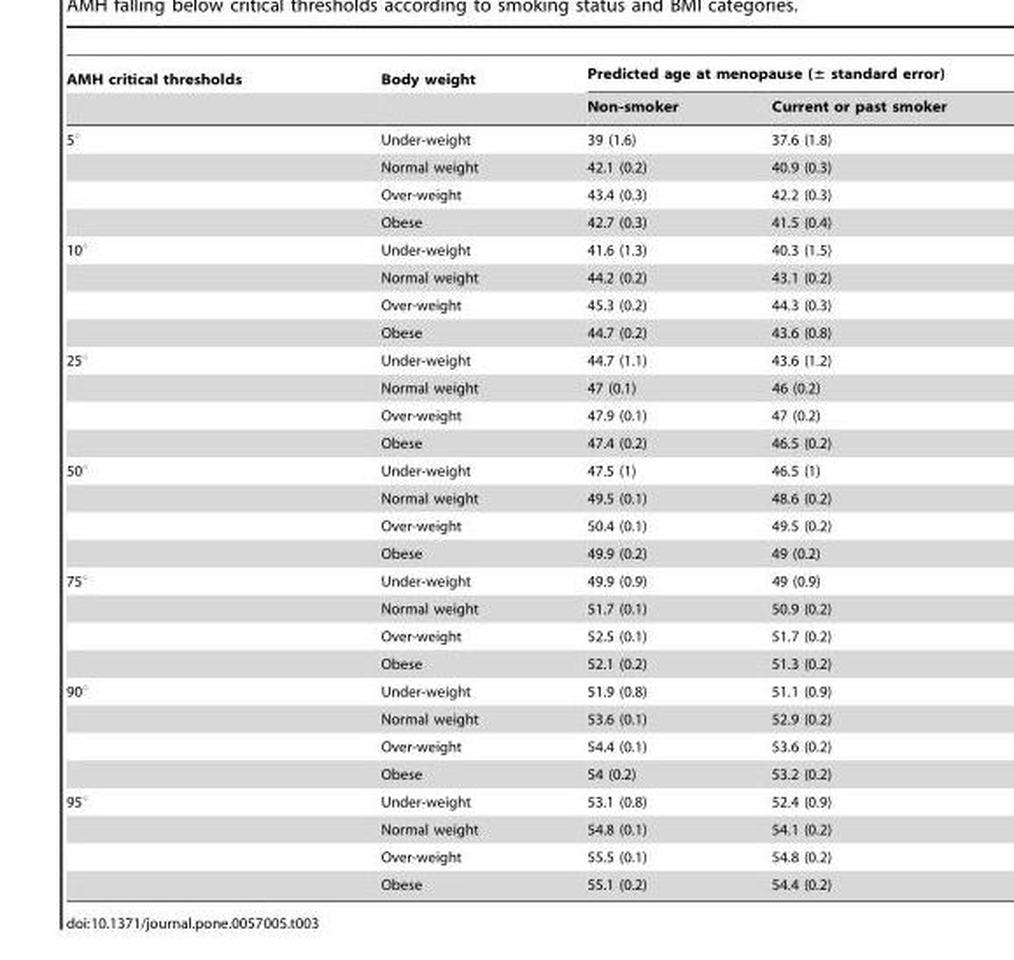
<table><thead><tr><td rowspan="2">AMH critical thresholds</td><td rowspan="2">Body weight</td><td colspan="2">Predicted age at menopause (± standard error)</td></tr><tr><td>Non-smoker</td><td>Current or past smoker</td></tr></thead><tbody><tr><td rowspan="4">5°</td><td>Under-weight</td><td>39 (1.6)</td><td>37.6 (1.8)</td></tr><tr><td>Normal weight</td><td>42.1 (0.2)</td><td>40.9 (0.3)</td></tr><tr><td>Over-weight</td><td>43.4 (0.3)</td><td>42.2 (0.3)</td></tr><tr><td>Obese</td><td>42.7 (0.3)</td><td>41.5 (0.4)</td></tr><tr><td rowspan="4">10°</td><td>Under-weight</td><td>41.6 (1.3)</td><td>40.3 (1.5)</td></tr><tr><td>Normal weight</td><td>44.2 (0.2)</td><td>43.1 (0.2)</td></tr><tr><td>Over-weight</td><td>45.3 (0.2)</td><td>44.3 (0.3)</td></tr><tr><td>Obese</td><td>44.7 (0.2)</td><td>43.6 (0.8)</td></tr><tr><td rowspan="4">25°</td><td>Under-weight</td><td>44.7 (1.1)</td><td>43.6 (1.2)</td></tr><tr><td>Normal weight</td><td>47 (0.1)</td><td>46 (0.2)</td></tr><tr><td>Over-weight</td><td>47.9 (0.1)</td><td>47 (0.2)</td></tr><tr><td>Obese</td><td>47.4 (0.2)</td><td>46.5 (0.2)</td></tr><tr><td rowspan="4">50°</td><td>Under-weight</td><td>47.5 (1)</td><td>46.5 (1)</td></tr><tr><td>Normal weight</td><td>49.5 (0.1)</td><td>48.6 (0.2)</td></tr><tr><td>Over-weight</td><td>50.4 (0.1)</td><td>49.5 (0.2)</td></tr><tr><td>Obese</td><td>49.9 (0.2)</td><td>49 (0.2)</td></tr><tr><td rowspan="4">75°</td><td>Under-weight</td><td>49.9 (0.9)</td><td>49 (0.9)</td></tr><tr><td>Normal weight</td><td>51.7 (0.1)</td><td>50.9 (0.2)</td></tr><tr><td>Over-weight</td><td>52.5 (0.1)</td><td>51.7 (0.2)</td></tr><tr><td>Obese</td><td>52.1 (0.2)</td><td>51.3 (0.2)</td></tr><tr><td rowspan="4">90°</td><td>Under-weight</td><td>51.9 (0.8)</td><td>51.1 (0.9)</td></tr><tr><td>Normal weight</td><td>53.6 (0.1)</td><td>52.9 (0.2)</td></tr><tr><td>Over-weight</td><td>54.4 (0.1)</td><td>53.6 (0.2)</td></tr><tr><td>Obese</td><td>54 (0.2)</td><td>53.2 (0.2)</td></tr><tr><td rowspan="4">95°</td><td>Under-weight</td><td>53.1 (0.8)</td><td>52.4 (0.9)</td></tr><tr><td>Normal weight</td><td>54.8 (0.1)</td><td>54.1 (0.2)</td></tr><tr><td>Over-weight</td><td>55.5 (0.1)</td><td>54.8 (0.2)</td></tr><tr><td>Obese</td><td>55.1 (0.2)</td><td>54.4 (0.2)</td></tr></tbody></table>